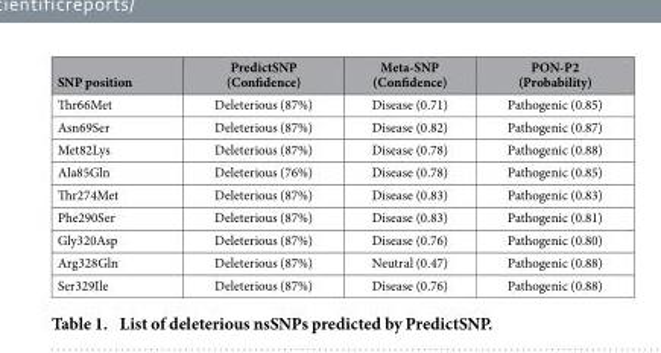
<table><thead><tr><td>SNP position</td><td>PredictSNP (Confidence)</td><td>Meta-SNP (Confidence)</td><td>PON-P2 (Probability)</td></tr></thead><tbody><tr><td>Thr66Met</td><td>Deleterious (87%)</td><td>Disease (0.71)</td><td>Pathogenic (0.85)</td></tr><tr><td>Asn69Ser</td><td>Deleterious (87%)</td><td>Disease (0.82)</td><td>Pathogenic (0.87)</td></tr><tr><td>Met82Lys</td><td>Deleterious (87%)</td><td>Disease (0.78)</td><td>Pathogenic (0.88)</td></tr><tr><td>Ala85Gln</td><td>Deleterious (76%)</td><td>Disease (0.78)</td><td>Pathogenic (0.85)</td></tr><tr><td>Thr274Met</td><td>Deleterious (87%)</td><td>Disease (0.83)</td><td>Pathogenic (0.83)</td></tr><tr><td>Phe290Ser</td><td>Deleterious (87%)</td><td>Disease (0.83)</td><td>Pathogenic (0.81)</td></tr><tr><td>Gly320Asp</td><td>Deleterious (87%)</td><td>Disease (0.76)</td><td>Pathogenic (0.80)</td></tr><tr><td>Arg328Gln</td><td>Deleterious (87%)</td><td>Neutral (0.47)</td><td>Pathogenic (0.88)</td></tr><tr><td>Ser329Ile</td><td>Deleterious (87%)</td><td>Disease (0.76)</td><td>Pathogenic (0.88)</td></tr></tbody></table>